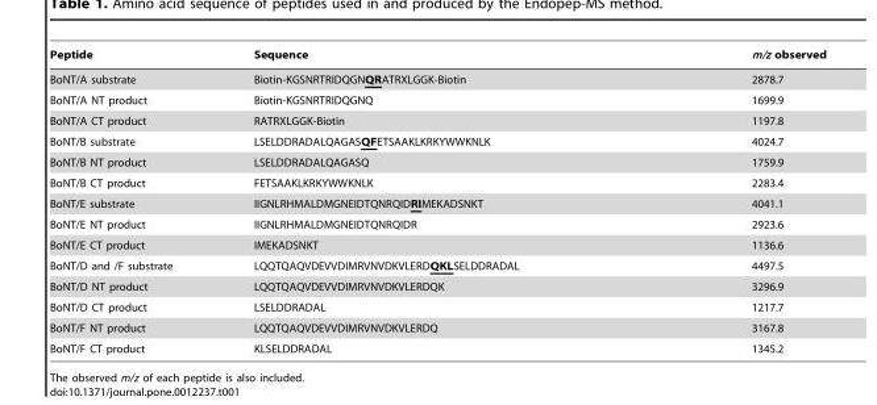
<table><thead><tr><td>Peptide</td><td>Sequence</td><td>m/z observed</td></tr></thead><tbody><tr><td>BoNT/A substrate</td><td>Biotin-KGSNRTRIDQGNQRATRXLGGK-Biotin</td><td>2878.7</td></tr><tr><td>BoNT/A NT product</td><td>Biotin-KGSNRTRIDQGNQ</td><td>1699.9</td></tr><tr><td>BoNT/A CT product</td><td>RATRXLGGK-Biotin</td><td>1197.8</td></tr><tr><td>BoNT/B substrate</td><td>LSELDDRADALQAGASQFETSAAKLKRKYWWKNLK</td><td>4024.7</td></tr><tr><td>BoNT/B NT product</td><td>LSELDDRADALQAGASQ</td><td>1759.9</td></tr><tr><td>BoNT/B CT product</td><td>FETSAAKLKRKYWWKNLK</td><td>2283.4</td></tr><tr><td>BoNT/E substrate</td><td>IIGNLRHMALDMGNEIDTQNRQIDRIMEKADSNKT</td><td>4041.1</td></tr><tr><td>BoNT/E NT product</td><td>IIGNLRHMALDMGNEIDTQNRQIDR</td><td>2923.6</td></tr><tr><td>BoNT/E CT product</td><td>IMEKADSNKT</td><td>1136.6</td></tr><tr><td>BoNT/D and /F substrate</td><td>LQQTQAQVDEVVDIMRVNVDKVLERDQKLSELDDRADAL</td><td>4497.5</td></tr><tr><td>BoNT/D NT product</td><td>LQQTQAQVDEVVDIMRVNVDKVLERDQK</td><td>3296.9</td></tr><tr><td>BoNT/D CT product</td><td>LSELDDRADAL</td><td>1217.7</td></tr><tr><td>BoNT/F NT product</td><td>LQQTQAQVDEVVDIMRVNVDKVLERDQ</td><td>3167.8</td></tr><tr><td>BoNT/F CT product</td><td>KLSELDDRADAL</td><td>1345.2</td></tr></tbody></table>